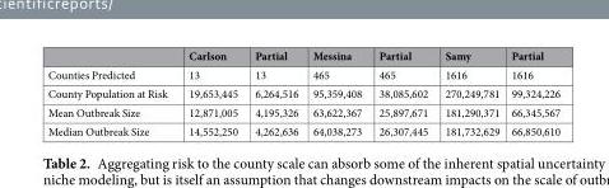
<table><thead><tr><td></td><td>Carlson</td><td>Partial</td><td>Messina</td><td>Partial</td><td>Samy</td><td>Partial</td></tr></thead><tbody><tr><td>Counties Predicted</td><td>13</td><td>13</td><td>465</td><td>465</td><td>1616</td><td>1616</td></tr><tr><td>County Population at Risk</td><td>19,653,445</td><td>6,264,516</td><td>95,359,408</td><td>38,085,602</td><td>270,249,781</td><td>99,324,226</td></tr><tr><td>Mean Outbreak Size</td><td>12,871,005</td><td>4,195,326</td><td>63,622,367</td><td>25,897,671</td><td>181,290,371</td><td>66,345,567</td></tr><tr><td>Median Outbreak Size</td><td>14,552,250</td><td>4,262,636</td><td>64,038,273</td><td>26,307,445</td><td>181,732,629</td><td>66,850,610</td></tr></tbody></table>